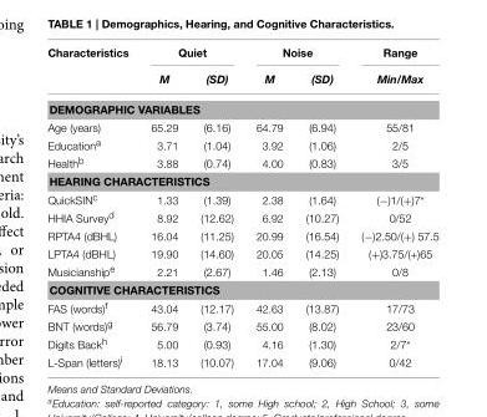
<table><thead><tr><td rowspan="2">Characteristics</td><td colspan="2">Quiet</td><td colspan="2">Noise</td><td rowspan="2">Range Min/Max</td></tr><tr><td>M</td><td>(SD)</td><td>M</td><td>(SD)</td></tr></thead><tbody><tr><td colspan="6">DEMOGRAPHIC VARIABLES</td></tr><tr><td>Age (years)</td><td>65.29</td><td>(6.16)</td><td>64.79</td><td>(6.94)</td><td>55/81</td></tr><tr><td>Education<sup>a</sup></td><td>3.71</td><td>(1.04)</td><td>3.92</td><td>(1.06)</td><td>2/5</td></tr><tr><td>Health<sup>b</sup></td><td>3.88</td><td>(0.74)</td><td>4.00</td><td>(0.83)</td><td>3/5</td></tr><tr><td colspan="6">HEARING CHARACTERISTICS</td></tr><tr><td>QuickSIN<sup>c</sup></td><td>1.33</td><td>(1.39)</td><td>2.38</td><td>(1.64)</td><td>(−)1/(+)7*</td></tr><tr><td>HHIA Survey<sup>d</sup></td><td>8.92</td><td>(12.62)</td><td>6.92</td><td>(10.27)</td><td>0/52</td></tr><tr><td>RPTA4 (dBHL)</td><td>16.04</td><td>(11.25)</td><td>20.99</td><td>(16.54)</td><td>(−)2.50/(+) 57.5</td></tr><tr><td>LPTA4 (dBHL)</td><td>19.90</td><td>(14.60)</td><td>20.05</td><td>(14.25)</td><td>(+)3.75/(+)65</td></tr><tr><td>Musicianship<sup>e</sup></td><td>2.21</td><td>(2.67)</td><td>1.46</td><td>(2.13)</td><td>0/8</td></tr><tr><td colspan="6">COGNITIVE CHARACTERISTICS</td></tr><tr><td>FAS (words)<sup>f</sup></td><td>43.04</td><td>(12.17)</td><td>42.63</td><td>(13.87)</td><td>17/73</td></tr><tr><td>BNT (words)<sup>g</sup></td><td>56.79</td><td>(3.74)</td><td>55.00</td><td>(8.02)</td><td>23/60</td></tr><tr><td>Digits Back<sup>h</sup></td><td>5.00</td><td>(0.93)</td><td>4.16</td><td>(1.30)</td><td>2/7*</td></tr><tr><td>L-Span (letters)<sup>i</sup></td><td>18.13</td><td>(10.07)</td><td>17.04</td><td>(9.06)</td><td>0/42</td></tr></tbody></table>